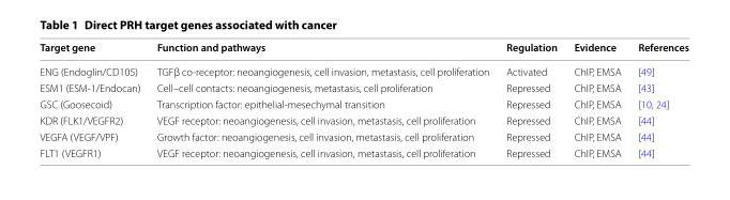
<table><thead><tr><td>Target gene</td><td>Function and pathways</td><td>Regulation</td><td>Evidence</td><td>References</td></tr></thead><tbody><tr><td>ENG (Endoglin/CD105)</td><td>TGFβ co‑receptor: neoangiogenesis, cell invasion, metastasis, cell proliferation</td><td>Activated</td><td>ChIP, EMSA</td><td>[49]</td></tr><tr><td>ESM1 (ESM‑1/Endocan)</td><td>Cell–cell contacts: neoangiogenesis, metastasis, cell proliferation</td><td>Repressed</td><td>ChIP, EMSA</td><td>[43]</td></tr><tr><td>GSC (Goosecoid)</td><td>Transcription factor: epithelial‑mesechymal transition</td><td>Repressed</td><td>ChIP, EMSA</td><td>[10, 24]</td></tr><tr><td>KDR (FLK1/VEGFR2)</td><td>VEGF receptor: neoangiogenesis, cell invasion, metastasis, cell proliferation</td><td>Repressed</td><td>ChIP, EMSA</td><td>[44]</td></tr><tr><td>VEGFA (VEGF/VPF)</td><td>Growth factor: neoangiogenesis, cell invasion, metastasis, cell proliferation</td><td>Repressed</td><td>ChIP, EMSA</td><td>[44]</td></tr><tr><td>FLT1 (VEGFR1)</td><td>VEGF receptor: neoangiogenesis, cell invasion, metastasis, cell proliferation</td><td>Repressed</td><td>ChIP, EMSA</td><td>[44]</td></tr></tbody></table>